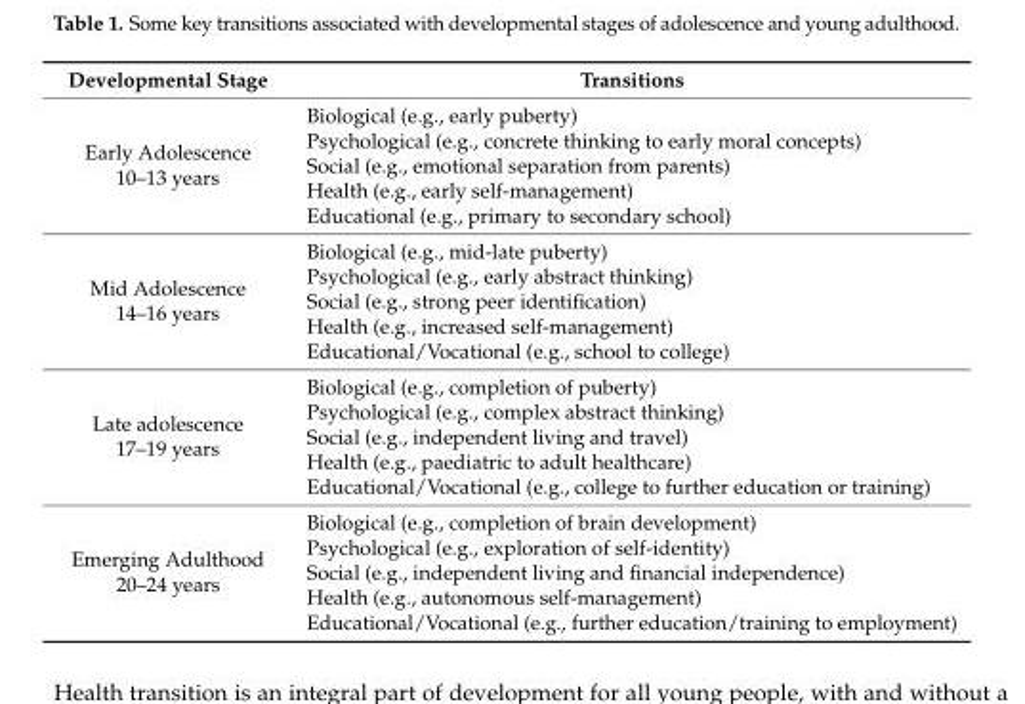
<table><thead><tr><td>Developmental Stage</td><td>Transitions</td></tr></thead><tbody><tr><td rowspan="5">Early Adolescence 10–13 years</td><td>Biological (e.g., early puberty)</td></tr><tr><td>Psychological (e.g., concrete thinking to early moral concepts)</td></tr><tr><td>Social (e.g., emotional separation from parents)</td></tr><tr><td>Health (e.g., early self-management)</td></tr><tr><td>Educational (e.g., primary to secondary school)</td></tr><tr><td rowspan="5">Mid Adolescence 14–16 years</td><td>Biological (e.g., mid-late puberty)</td></tr><tr><td>Psychological (e.g., early abstract thinking)</td></tr><tr><td>Social (e.g., strong peer identification)</td></tr><tr><td>Health (e.g., increased self-management)</td></tr><tr><td>Educational/Vocational (e.g., school to college)</td></tr><tr><td rowspan="5">Late adolescence 17–19 years</td><td>Biological (e.g., completion of puberty)</td></tr><tr><td>Psychological (e.g., complex abstract thinking)</td></tr><tr><td>Social (e.g., independent living and travel)</td></tr><tr><td>Health (e.g., paediatric to adult healthcare)</td></tr><tr><td>Educational/Vocational (e.g., college to further education or training)</td></tr><tr><td rowspan="5">Emerging Adulthood 20–24 years</td><td>Biological (e.g., completion of brain development)</td></tr><tr><td>Psychological (e.g., exploration of self-identity)</td></tr><tr><td>Social (e.g., independent living and financial independence)</td></tr><tr><td>Health (e.g., autonomous self-management)</td></tr><tr><td>Educational/Vocational (e.g., further education/training to employment)</td></tr></tbody></table>